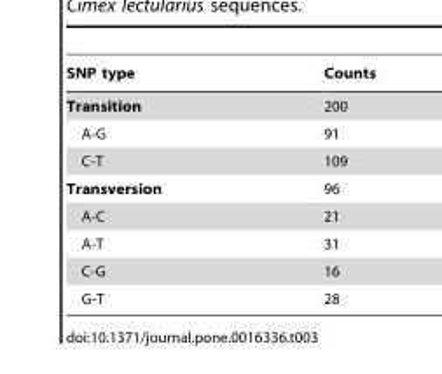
<table><thead><tr><td>SNP type</td><td>Counts</td></tr></thead><tbody><tr><td>Transition</td><td>200</td></tr><tr><td>A-G</td><td>91</td></tr><tr><td>C-T</td><td>109</td></tr><tr><td>Transversion</td><td>96</td></tr><tr><td>A-C</td><td>21</td></tr><tr><td>A-T</td><td>31</td></tr><tr><td>C-G</td><td>16</td></tr><tr><td>G-T</td><td>28</td></tr></tbody></table>